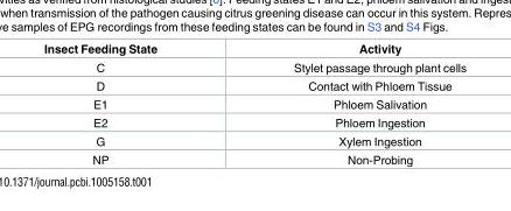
<table><thead><tr><td>Insect Feeding State</td><td>Activity</td></tr></thead><tbody><tr><td>C</td><td>Stylet passage through plant cells</td></tr><tr><td>D</td><td>Contact with Phloem Tissue</td></tr><tr><td>E1</td><td>Phloem Salivation</td></tr><tr><td>E2</td><td>Phloem Ingestion</td></tr><tr><td>G</td><td>Xylem Ingestion</td></tr><tr><td>NP</td><td>Non-Probing</td></tr></tbody></table>